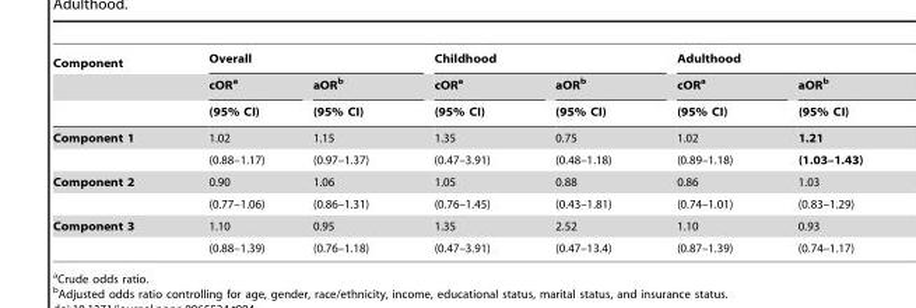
<table><thead><tr><td rowspan="3">Component</td><td colspan="2">Overall</td><td colspan="2">Childhood</td><td colspan="2">Adulthood</td></tr><tr><td rowspan="2">cOR<sup>a</sup> (95% CI)</td><td rowspan="2">aOR<sup>b</sup> (95% CI)</td><td rowspan="2">cOR<sup>a</sup> (95% CI)</td><td rowspan="2">aOR<sup>b</sup> (95% CI)</td><td rowspan="2">cOR<sup>a</sup> (95% CI)</td><td rowspan="2">aOR<sup>b</sup> (95% CI)</td></tr><tr></tr></thead><tbody><tr><td rowspan="2">Component 1</td><td>1.02</td><td>1.15</td><td>1.35</td><td>0.75</td><td>1.02</td><td>1.21</td></tr><tr><td>(0.88–1.17)</td><td>(0.97–1.37)</td><td>(0.47–3.91)</td><td>(0.48–1.18)</td><td>(0.89–1.18)</td><td>(1.03–1.43)</td></tr><tr><td rowspan="2">Component 2</td><td>0.90</td><td>1.06</td><td>1.05</td><td>0.88</td><td>0.86</td><td>1.03</td></tr><tr><td>(0.77–1.06)</td><td>(0.86–1.31)</td><td>(0.76–1.45)</td><td>(0.43–1.81)</td><td>(0.74–1.01)</td><td>(0.83–1.29)</td></tr><tr><td rowspan="2">Component 3</td><td>1.10</td><td>0.95</td><td>1.35</td><td>2.52</td><td>1.10</td><td>0.93</td></tr><tr><td>(0.88–1.39)</td><td>(0.76–1.18)</td><td>(0.47–3.91)</td><td>(0.47–13.4)</td><td>(0.87–1.39)</td><td>(0.74–1.17)</td></tr></tbody></table>